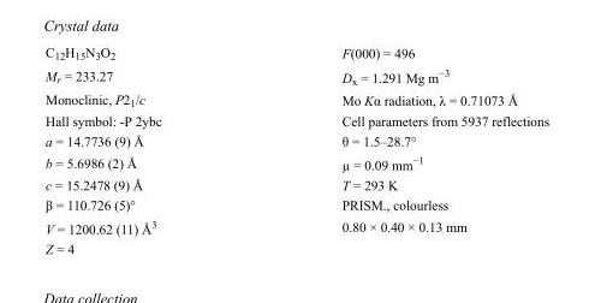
<table><tbody><tr><td>C<sub>12</sub>H<sub>15</sub>N<sub>3</sub>O<sub>2</sub></td><td>F(000) = 496</td></tr><tr><td>M<sub>r</sub> = 233.27</td><td>D<sub>x</sub> = 1.291 Mg m<sup>−3</sup></td></tr><tr><td>Monoclinic, P2<sub>1</sub>/c</td><td>Mo Kα radiation, λ = 0.71073 Å</td></tr><tr><td>Hall symbol: -P 2ybc</td><td>Cell parameters from 5937 reflections</td></tr><tr><td>a = 14.7736 (9) Å</td><td>θ = 1.5–28.7°</td></tr><tr><td>b = 5.6986 (2) Å</td><td>µ = 0.09 mm<sup>−1</sup></td></tr><tr><td>c = 15.2478 (9) Å</td><td>T = 293 K</td></tr><tr><td>β = 110.726 (5)°</td><td>PRISM., colourless</td></tr><tr><td>V = 1200.62 (11) Å<sup>3</sup></td><td>0.80 × 0.40 × 0.13 mm</td></tr><tr><td>Z = 4</td><td></td></tr></tbody></table>